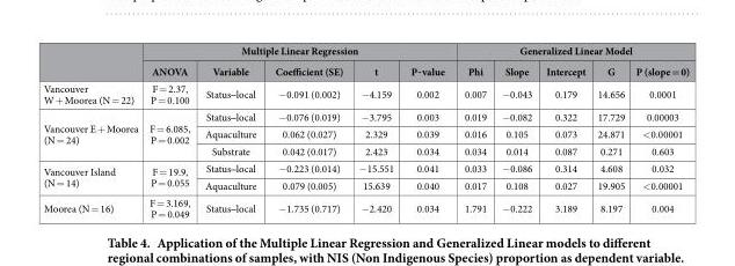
<table><thead><tr><td rowspan="2"></td><td colspan="5">Multiple Linear Regression</td><td colspan="5">Generalized Linear Model</td></tr><tr><td>ANOVA</td><td>Variable</td><td>Coefficient (SE)</td><td>t</td><td>P-value</td><td>Phi</td><td>Slope</td><td>Intercept</td><td>G</td><td>P (slope = 0)</td></tr></thead><tbody><tr><td>Vancouver W + Moorea (N = 22)</td><td>F = 2.37, P = 0.100</td><td>Status‒ local</td><td>− 0.091 (0.002)</td><td>− 4.159</td><td>0.002</td><td>0.007</td><td>− 0.043</td><td>0.179</td><td>14.656</td><td>0.0001</td></tr><tr><td rowspan="3">Vancouver E + Moorea (N = 24)</td><td rowspan="3">F = 6.085, P = 0.002</td><td>Status‒ local</td><td>− 0.076 (0.019)</td><td>− 3.795</td><td>0.003</td><td>0.019</td><td>− 0.082</td><td>0.322</td><td>17.729</td><td>0.00003</td></tr><tr><td>Aquaculture</td><td>0.062 (0.027)</td><td>2.329</td><td>0.039</td><td>0.016</td><td>0.105</td><td>0.073</td><td>24.871</td><td>&lt; 0.00001</td></tr><tr><td>Substrate</td><td>0.042 (0.017)</td><td>2.423</td><td>0.034</td><td>0.034</td><td>0.014</td><td>0.087</td><td>0.271</td><td>0.603</td></tr><tr><td rowspan="2">Vancouver Island (N = 14)</td><td rowspan="2">F = 19.9, P = 0.055</td><td>Status‒ local</td><td>− 0.223 (0.014)</td><td>− 15.551</td><td>0.041</td><td>0.033</td><td>− 0.086</td><td>0.314</td><td>4.608</td><td>0.032</td></tr><tr><td>Aquaculture</td><td>0.079 (0.005)</td><td>15.639</td><td>0.040</td><td>0.017</td><td>0.108</td><td>0.027</td><td>19.905</td><td>&lt; 0.00001</td></tr><tr><td>Moorea (N = 16)</td><td>F = 3.169, P = 0.049</td><td>Status‒ local</td><td>− 1.735 (0.717)</td><td>− 2.420</td><td>0.034</td><td>1.791</td><td>− 0.222</td><td>3.189</td><td>8.197</td><td>0.004</td></tr></tbody></table>